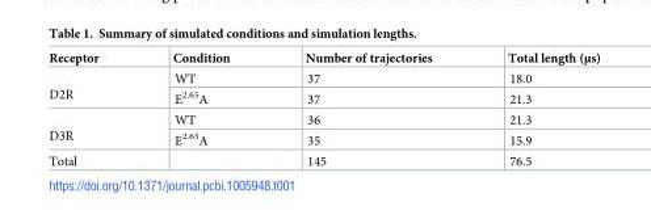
<table><thead><tr><td>Receptor</td><td>Condition</td><td>Number of trajectories</td><td>Total length (μs)</td></tr></thead><tbody><tr><td rowspan="2">D2R</td><td>WT</td><td>37</td><td>18.0</td></tr><tr><td>E<sup>2.65</sup>A</td><td>37</td><td>21.3</td></tr><tr><td rowspan="2">D3R</td><td>WT</td><td>36</td><td>21.3</td></tr><tr><td>E<sup>2.65</sup>A</td><td>35</td><td>15.9</td></tr><tr><td>Total</td><td></td><td>145</td><td>76.5</td></tr></tbody></table>